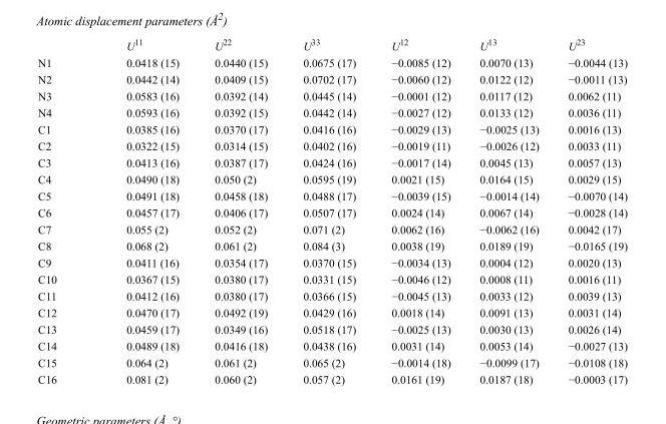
<table><thead><tr><td></td><td>U<sup>11</sup></td><td>U<sup>22</sup></td><td>U<sup>33</sup></td><td>U<sup>12</sup></td><td>U<sup>13</sup></td><td>U<sup>23</sup></td></tr></thead><tbody><tr><td>N1</td><td>0.0418 (15)</td><td>0.0440 (15)</td><td>0.0675 (17)</td><td>−0.0085 (12)</td><td>0.0070 (13)</td><td>−0.0044 (13)</td></tr><tr><td>N2</td><td>0.0442 (14)</td><td>0.0409 (15)</td><td>0.0702 (17)</td><td>−0.0060 (12)</td><td>0.0122 (12)</td><td>−0.0011 (13)</td></tr><tr><td>N3</td><td>0.0583 (16)</td><td>0.0392 (14)</td><td>0.0445 (14)</td><td>−0.0001 (12)</td><td>0.0117 (12)</td><td>0.0062 (11)</td></tr><tr><td>N4</td><td>0.0593 (16)</td><td>0.0392 (15)</td><td>0.0442 (14)</td><td>−0.0027 (12)</td><td>0.0133 (12)</td><td>0.0036 (11)</td></tr><tr><td>C1</td><td>0.0385 (16)</td><td>0.0370 (17)</td><td>0.0416 (16)</td><td>−0.0029 (13)</td><td>−0.0025 (13)</td><td>0.0016 (13)</td></tr><tr><td>C2</td><td>0.0322 (15)</td><td>0.0314 (15)</td><td>0.0402 (16)</td><td>−0.0019 (11)</td><td>−0.0026 (12)</td><td>0.0033 (11)</td></tr><tr><td>C3</td><td>0.0413 (16)</td><td>0.0387 (17)</td><td>0.0424 (16)</td><td>−0.0017 (14)</td><td>0.0045 (13)</td><td>0.0057 (13)</td></tr><tr><td>C4</td><td>0.0490 (18)</td><td>0.050 (2)</td><td>0.0595 (19)</td><td>0.0021 (15)</td><td>0.0164 (15)</td><td>0.0029 (15)</td></tr><tr><td>C5</td><td>0.0491 (18)</td><td>0.0458 (18)</td><td>0.0488 (17)</td><td>−0.0039 (15)</td><td>−0.0014 (14)</td><td>−0.0070 (14)</td></tr><tr><td>C6</td><td>0.0457 (17)</td><td>0.0406 (17)</td><td>0.0507 (17)</td><td>0.0024 (14)</td><td>0.0067 (14)</td><td>−0.0028 (14)</td></tr><tr><td>C7</td><td>0.055 (2)</td><td>0.052 (2)</td><td>0.071 (2)</td><td>0.0062 (16)</td><td>−0.0062 (16)</td><td>0.0042 (17)</td></tr><tr><td>C8</td><td>0.068 (2)</td><td>0.061 (2)</td><td>0.084 (3)</td><td>0.0038 (19)</td><td>0.0189 (19)</td><td>−0.0165 (19)</td></tr><tr><td>C9</td><td>0.0411 (16)</td><td>0.0354 (17)</td><td>0.0370 (15)</td><td>−0.0034 (13)</td><td>0.0004 (12)</td><td>0.0020 (13)</td></tr><tr><td>C10</td><td>0.0367 (15)</td><td>0.0380 (17)</td><td>0.0331 (15)</td><td>−0.0046 (12)</td><td>0.0008 (11)</td><td>0.0016 (11)</td></tr><tr><td>C11</td><td>0.0412 (16)</td><td>0.0380 (17)</td><td>0.0366 (15)</td><td>−0.0045 (13)</td><td>0.0033 (12)</td><td>0.0039 (13)</td></tr><tr><td>C12</td><td>0.0470 (17)</td><td>0.0492 (19)</td><td>0.0429 (16)</td><td>0.0018 (14)</td><td>0.0091 (13)</td><td>0.0031 (14)</td></tr><tr><td>C13</td><td>0.0459 (17)</td><td>0.0349 (16)</td><td>0.0518 (17)</td><td>−0.0025 (13)</td><td>0.0030 (13)</td><td>0.0026 (14)</td></tr><tr><td>C14</td><td>0.0489 (18)</td><td>0.0416 (18)</td><td>0.0438 (16)</td><td>0.0031 (14)</td><td>0.0053 (14)</td><td>−0.0027 (13)</td></tr><tr><td>C15</td><td>0.064 (2)</td><td>0.061 (2)</td><td>0.065 (2)</td><td>−0.0014 (18)</td><td>−0.0099 (17)</td><td>−0.0108 (18)</td></tr><tr><td>C16</td><td>0.081 (2)</td><td>0.060 (2)</td><td>0.057 (2)</td><td>0.0161 (19)</td><td>0.0187 (18)</td><td>−0.0003 (17)</td></tr></tbody></table>